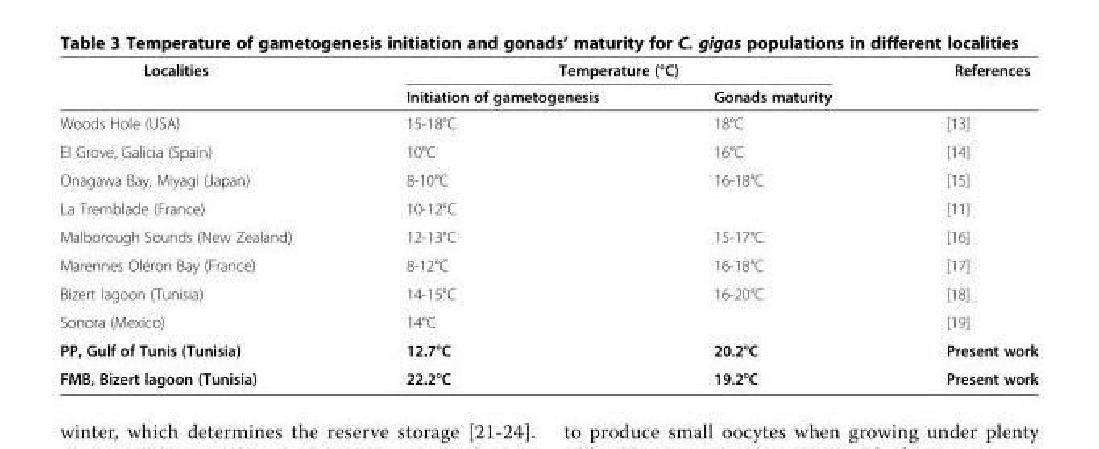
<table><thead><tr><td rowspan="2">Localities</td><td colspan="2">Temperature (°C)</td><td rowspan="2">References</td></tr><tr><td>Initiation of gametogenesis</td><td>Gonads maturity</td></tr></thead><tbody><tr><td>Woods Hole (USA)</td><td>15-18°C</td><td>18°C</td><td>[13]</td></tr><tr><td>El Grove, Galicia (Spain)</td><td>10°C</td><td>16°C</td><td>[14]</td></tr><tr><td>Onagawa Bay, Miyagi (Japan)</td><td>8-10°C</td><td>16-18°C</td><td>[15]</td></tr><tr><td>La Tremblade (France)</td><td>10-12°C</td><td></td><td>[11]</td></tr><tr><td>Malborough Sounds (New Zealand)</td><td>12-13°C</td><td>15-17°C</td><td>[16]</td></tr><tr><td>Marennes Oléron Bay (France)</td><td>8-12°C</td><td>16-18°C</td><td>[17]</td></tr><tr><td>Bizert lagoon (Tunisia)</td><td>14-15°C</td><td>16-20°C</td><td>[18]</td></tr><tr><td>Sonora (Mexico)</td><td>14°C</td><td></td><td>[19]</td></tr><tr><td>PP, Gulf of Tunis (Tunisia)</td><td>12.7°C</td><td>20.2°C</td><td>Present work</td></tr><tr><td>FMB, Bizert lagoon (Tunisia)</td><td>22.2°C</td><td>19.2°C</td><td>Present work</td></tr></tbody></table>